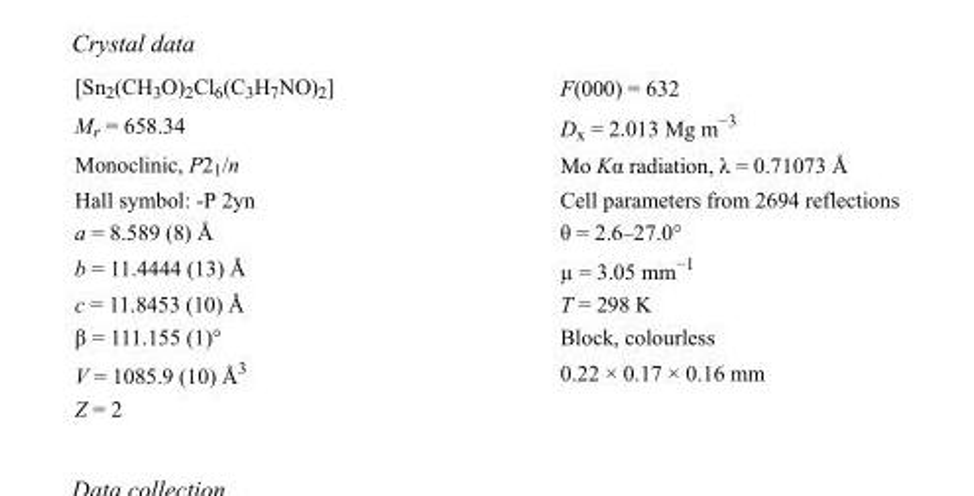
<table><tbody><tr><td>[Sn<sub>2</sub>(CH<sub>3</sub>O)<sub>2</sub>Cl<sub>6</sub>(C<sub>3</sub>H<sub>7</sub>NO)<sub>2</sub>]</td><td>F(000) = 632</td></tr><tr><td>M<sub>r</sub> = 658.34</td><td>D<sub>x</sub> = 2.013 Mg m<sup>−3</sup></td></tr><tr><td>Monoclinic, P2<sub>1</sub>/n</td><td>Mo Kα radiation, λ = 0.71073 Å</td></tr><tr><td>Hall symbol: -P 2yn</td><td>Cell parameters from 2694 reflections</td></tr><tr><td>a = 8.589 (8) Å</td><td>θ = 2.6–27.0°</td></tr><tr><td>b = 11.4444 (13) Å</td><td>µ = 3.05 mm<sup>−1</sup></td></tr><tr><td>c = 11.8453 (10) Å</td><td>T = 298 K</td></tr><tr><td>β = 111.155 (1)°</td><td>Block, colourless</td></tr><tr><td>V = 1085.9 (10) Å<sup>3</sup></td><td>0.22 × 0.17 × 0.16 mm</td></tr><tr><td>Z = 2</td><td></td></tr></tbody></table>